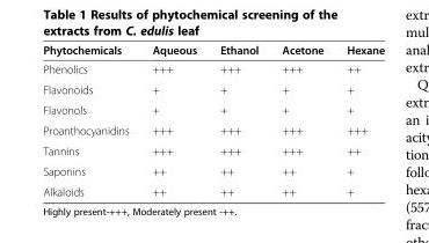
<table><thead><tr><td>Phytochemicals</td><td>Aqueous</td><td>Ethanol</td><td>Acetone</td><td>Hexane</td></tr></thead><tbody><tr><td>Phenolics</td><td>+++</td><td>+++</td><td>+++</td><td>++</td></tr><tr><td>Flavonoids</td><td>+</td><td>+</td><td>+</td><td>+</td></tr><tr><td>Flavonols</td><td>+</td><td>+</td><td>+</td><td>+</td></tr><tr><td>Proanthocyanidins</td><td>+++</td><td>+++</td><td>+++</td><td>+++</td></tr><tr><td>Tannins</td><td>+++</td><td>+++</td><td>+++</td><td>++</td></tr><tr><td>Saponins</td><td>++</td><td>++</td><td>++</td><td>+</td></tr><tr><td>Alkaloids</td><td>++</td><td>++</td><td>++</td><td>+</td></tr></tbody></table>